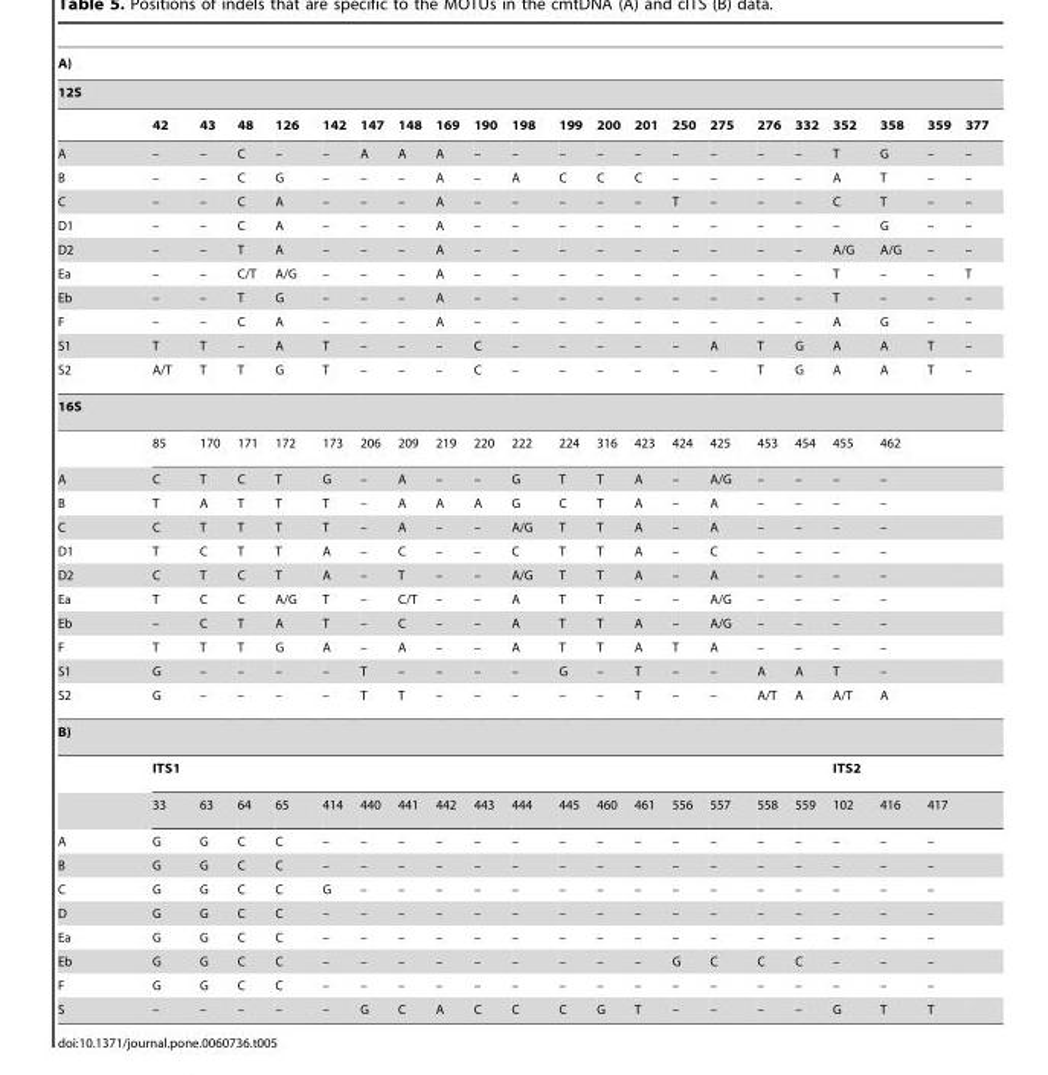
<table><thead><tr><td rowspan="2" colspan="22">A) 12S</td></tr><tr></tr><tr><td></td><td>42</td><td>43</td><td>48</td><td>126</td><td>142</td><td>147</td><td>148</td><td>169</td><td>190</td><td>198</td><td>199</td><td>200</td><td>201</td><td>250</td><td>275</td><td>276</td><td>332</td><td>352</td><td>358</td><td>359</td><td>377</td></tr></thead><tbody><tr><td>A</td><td>–</td><td>–</td><td>C</td><td>–</td><td>–</td><td>A</td><td>A</td><td>A</td><td>–</td><td>–</td><td>–</td><td>–</td><td>–</td><td>–</td><td>–</td><td>–</td><td>–</td><td>T</td><td>G</td><td>–</td><td>–</td></tr><tr><td>B</td><td>–</td><td>–</td><td>C</td><td>G</td><td>–</td><td>–</td><td>–</td><td>A</td><td>–</td><td>A</td><td>C</td><td>C</td><td>C</td><td>–</td><td>–</td><td>–</td><td>–</td><td>A</td><td>T</td><td>–</td><td>–</td></tr><tr><td>C</td><td>–</td><td>–</td><td>C</td><td>A</td><td>–</td><td>–</td><td>–</td><td>A</td><td>–</td><td>–</td><td>–</td><td>–</td><td>–</td><td>T</td><td>–</td><td>–</td><td>–</td><td>C</td><td>T</td><td>–</td><td>–</td></tr><tr><td>D1</td><td>–</td><td>–</td><td>C</td><td>A</td><td>–</td><td>–</td><td>–</td><td>A</td><td>–</td><td>–</td><td>–</td><td>–</td><td>–</td><td>–</td><td>–</td><td>–</td><td>–</td><td>–</td><td>G</td><td>–</td><td>–</td></tr><tr><td>D2</td><td>–</td><td>–</td><td>T</td><td>A</td><td>–</td><td>–</td><td>–</td><td>A</td><td>–</td><td>–</td><td>–</td><td>–</td><td>–</td><td>–</td><td>–</td><td>–</td><td>–</td><td>A/G</td><td>A/G</td><td>–</td><td>–</td></tr><tr><td>Ea</td><td>–</td><td>–</td><td>C/T</td><td>A/G</td><td>–</td><td>–</td><td>–</td><td>A</td><td>–</td><td>–</td><td>–</td><td>–</td><td>–</td><td>–</td><td>–</td><td>–</td><td>–</td><td>T</td><td>–</td><td>–</td><td>T</td></tr><tr><td>Eb</td><td>–</td><td>–</td><td>T</td><td>G</td><td>–</td><td>–</td><td>–</td><td>A</td><td>–</td><td>–</td><td>–</td><td>–</td><td>–</td><td>–</td><td>–</td><td>–</td><td>–</td><td>T</td><td>–</td><td>–</td><td>–</td></tr><tr><td>F</td><td>–</td><td>–</td><td>C</td><td>A</td><td>–</td><td>–</td><td>–</td><td>A</td><td>–</td><td>–</td><td>–</td><td>–</td><td>–</td><td>–</td><td>–</td><td>–</td><td>–</td><td>A</td><td>G</td><td>–</td><td>–</td></tr><tr><td>S1</td><td>T</td><td>T</td><td>–</td><td>A</td><td>T</td><td>–</td><td>–</td><td>–</td><td>C</td><td>–</td><td>–</td><td>–</td><td>–</td><td>–</td><td>A</td><td>T</td><td>G</td><td>A</td><td>A</td><td>T</td><td>–</td></tr><tr><td>S2</td><td>A/T</td><td>T</td><td>T</td><td>G</td><td>T</td><td>–</td><td>–</td><td>–</td><td>C</td><td>–</td><td>–</td><td>–</td><td>–</td><td>–</td><td>–</td><td>T</td><td>G</td><td>A</td><td>A</td><td>T</td><td>–</td></tr><tr><td colspan="22">16S</td></tr><tr><td></td><td>85</td><td>170</td><td>171</td><td>172</td><td>173</td><td>206</td><td>209</td><td>219</td><td>220</td><td>222</td><td>224</td><td>316</td><td>423</td><td>424</td><td>425</td><td>453</td><td>454</td><td>455</td><td>462</td><td></td><td></td></tr><tr><td>A</td><td>C</td><td>T</td><td>C</td><td>T</td><td>G</td><td>–</td><td>A</td><td>–</td><td>–</td><td>G</td><td>T</td><td>T</td><td>A</td><td>–</td><td>A/G</td><td>–</td><td>–</td><td>–</td><td>–</td><td></td><td></td></tr><tr><td>B</td><td>T</td><td>A</td><td>T</td><td>T</td><td>T</td><td>–</td><td>A</td><td>A</td><td>A</td><td>G</td><td>C</td><td>T</td><td>A</td><td>–</td><td>A</td><td>–</td><td>–</td><td>–</td><td>–</td><td></td><td></td></tr><tr><td>C</td><td>C</td><td>T</td><td>T</td><td>T</td><td>T</td><td>–</td><td>A</td><td>–</td><td>–</td><td>A/G</td><td>T</td><td>T</td><td>A</td><td>–</td><td>A</td><td>–</td><td>–</td><td>–</td><td>–</td><td></td><td></td></tr><tr><td>D1</td><td>T</td><td>C</td><td>T</td><td>T</td><td>A</td><td>–</td><td>C</td><td>–</td><td>–</td><td>C</td><td>T</td><td>T</td><td>A</td><td>–</td><td>C</td><td>–</td><td>–</td><td>–</td><td>–</td><td></td><td></td></tr><tr><td>D2</td><td>C</td><td>T</td><td>C</td><td>T</td><td>A</td><td>–</td><td>T</td><td>–</td><td>–</td><td>A/G</td><td>T</td><td>T</td><td>A</td><td>–</td><td>A</td><td>–</td><td>–</td><td>–</td><td>–</td><td></td><td></td></tr><tr><td>Ea</td><td>T</td><td>C</td><td>C</td><td>A/G</td><td>T</td><td>–</td><td>C/T</td><td>–</td><td>–</td><td>A</td><td>T</td><td>T</td><td>–</td><td>–</td><td>A/G</td><td>–</td><td>–</td><td>–</td><td>–</td><td></td><td></td></tr><tr><td>Eb</td><td>–</td><td>C</td><td>T</td><td>A</td><td>T</td><td>–</td><td>C</td><td>–</td><td>–</td><td>A</td><td>T</td><td>T</td><td>A</td><td>–</td><td>A/G</td><td>–</td><td>–</td><td>–</td><td>–</td><td></td><td></td></tr><tr><td>F</td><td>T</td><td>T</td><td>T</td><td>G</td><td>A</td><td>–</td><td>A</td><td>–</td><td>–</td><td>A</td><td>T</td><td>T</td><td>A</td><td>T</td><td>A</td><td>–</td><td>–</td><td>–</td><td>–</td><td></td><td></td></tr><tr><td>S1</td><td>G</td><td>–</td><td>–</td><td>–</td><td>–</td><td>T</td><td>–</td><td>–</td><td>–</td><td>–</td><td>G</td><td>–</td><td>T</td><td>–</td><td>–</td><td>A</td><td>A</td><td>T</td><td>–</td><td></td><td></td></tr><tr><td>S2</td><td>G</td><td>–</td><td>–</td><td>–</td><td>–</td><td>T</td><td>T</td><td>–</td><td>–</td><td>–</td><td>–</td><td>–</td><td>T</td><td>–</td><td>–</td><td>A/T</td><td>A</td><td>A/T</td><td>A</td><td></td><td></td></tr><tr><td colspan="22">B)</td></tr><tr><td></td><td colspan="17">ITS1</td><td colspan="4">ITS2</td></tr><tr><td></td><td>33</td><td>63</td><td>64</td><td>65</td><td>414</td><td>440</td><td>441</td><td>442</td><td>443</td><td>444</td><td>445</td><td>460</td><td>461</td><td>556</td><td>557</td><td>558</td><td>559</td><td>102</td><td>416</td><td>417</td><td></td></tr><tr><td>A</td><td>G</td><td>G</td><td>C</td><td>C</td><td>–</td><td>–</td><td>–</td><td>–</td><td>–</td><td>–</td><td>–</td><td>–</td><td>–</td><td>–</td><td>–</td><td>–</td><td>–</td><td>–</td><td>–</td><td>–</td><td></td></tr><tr><td>B</td><td>G</td><td>G</td><td>C</td><td>C</td><td>–</td><td>–</td><td>–</td><td>–</td><td>–</td><td>–</td><td>–</td><td>–</td><td>–</td><td>–</td><td>–</td><td>–</td><td>–</td><td>–</td><td>–</td><td>–</td><td></td></tr><tr><td>C</td><td>G</td><td>G</td><td>C</td><td>C</td><td>G</td><td>–</td><td>–</td><td>–</td><td>–</td><td>–</td><td>–</td><td>–</td><td>–</td><td>–</td><td>–</td><td>–</td><td>–</td><td>–</td><td>–</td><td>–</td><td></td></tr><tr><td>D</td><td>G</td><td>G</td><td>C</td><td>C</td><td>–</td><td>–</td><td>–</td><td>–</td><td>–</td><td>–</td><td>–</td><td>–</td><td>–</td><td>–</td><td>–</td><td>–</td><td>–</td><td>–</td><td>–</td><td>–</td><td></td></tr><tr><td>Ea</td><td>G</td><td>G</td><td>C</td><td>C</td><td>–</td><td>–</td><td>–</td><td>–</td><td>–</td><td>–</td><td>–</td><td>–</td><td>–</td><td>–</td><td>–</td><td>–</td><td>–</td><td>–</td><td>–</td><td>–</td><td></td></tr><tr><td>Eb</td><td>G</td><td>G</td><td>C</td><td>C</td><td>–</td><td>–</td><td>–</td><td>–</td><td>–</td><td>–</td><td>–</td><td>–</td><td>–</td><td>G</td><td>C</td><td>C</td><td>C</td><td>–</td><td>–</td><td>–</td><td></td></tr><tr><td>F</td><td>G</td><td>G</td><td>C</td><td>C</td><td>–</td><td>–</td><td>–</td><td>–</td><td>–</td><td>–</td><td>–</td><td>–</td><td>–</td><td>–</td><td>–</td><td>–</td><td>–</td><td>–</td><td>–</td><td>–</td><td></td></tr><tr><td>S</td><td>–</td><td>–</td><td>–</td><td>–</td><td>–</td><td>G</td><td>C</td><td>A</td><td>C</td><td>C</td><td>C</td><td>G</td><td>T</td><td>–</td><td>–</td><td>–</td><td>–</td><td>G</td><td>T</td><td>T</td><td></td></tr></tbody></table>